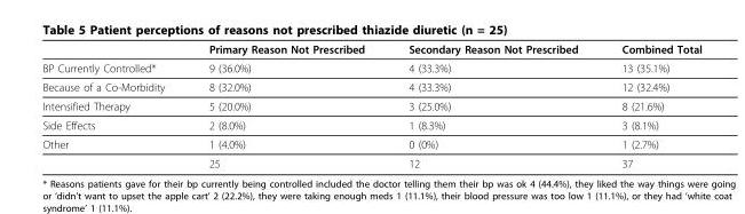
<table><thead><tr><td></td><td>Primary Reason Not Prescribed</td><td>Secondary Reason Not Prescribed</td><td>Combined Total</td></tr></thead><tbody><tr><td>BP Currently Controlled*</td><td>9 (36.0%)</td><td>4 (33.3%)</td><td>13 (35.1%)</td></tr><tr><td>Because of a Co-Morbidity</td><td>8 (32.0%)</td><td>4 (33.3%)</td><td>12 (32.4%)</td></tr><tr><td>Intensified Therapy</td><td>5 (20.0%)</td><td>3 (25.0%)</td><td>8 (21.6%)</td></tr><tr><td>Side Effects</td><td>2 (8.0%)</td><td>1 (8.3%)</td><td>3 (8.1%)</td></tr><tr><td rowspan="2">Other</td><td>1 (4.0%)</td><td>0 (0%)</td><td>1 (2.7%)</td></tr><tr><td>25</td><td>12</td><td>37</td></tr></tbody></table>